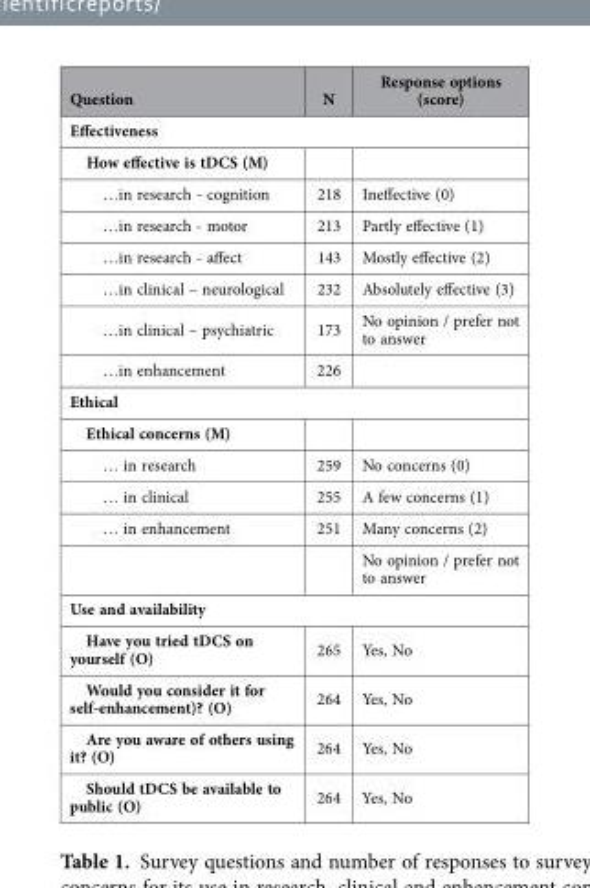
<table><thead><tr><td>Question</td><td>N</td><td>Response options (score)</td></tr></thead><tbody><tr><td colspan="3">Effectiveness</td></tr><tr><td colspan="3">How effective is tDCS (M)</td></tr><tr><td>…in research - cognition</td><td>218</td><td>Ineffective (0)</td></tr><tr><td>…in research - motor</td><td>213</td><td>Partly effective (1)</td></tr><tr><td>…in research - affect</td><td>143</td><td>Mostly effective (2)</td></tr><tr><td>…in clinical – neurological</td><td>232</td><td>Absolutely effective (3)</td></tr><tr><td>…in clinical – psychiatric</td><td>173</td><td>No opinion / prefer not to answer</td></tr><tr><td>…in enhancement</td><td>226</td><td></td></tr><tr><td colspan="3">Ethical</td></tr><tr><td colspan="3">Ethical concerns (M)</td></tr><tr><td>… in research</td><td>259</td><td>No concerns (0)</td></tr><tr><td>… in clinical</td><td>255</td><td>A few concerns (1)</td></tr><tr><td rowspan="2">… in enhancement</td><td>251</td><td>Many concerns (2)</td></tr><tr><td></td><td>No opinion / prefer not to answer</td></tr><tr><td colspan="3">Use and availability</td></tr><tr><td>Have you tried tDCS on yourself (O)</td><td>265</td><td>Yes, No</td></tr><tr><td>Would you consider it for self-enhancement)? (O)</td><td>264</td><td>Yes, No</td></tr><tr><td>Are you aware of others using it? (O)</td><td>264</td><td>Yes, No</td></tr><tr><td>Should tDCS be available to public (O)</td><td>264</td><td>Yes, No</td></tr></tbody></table>